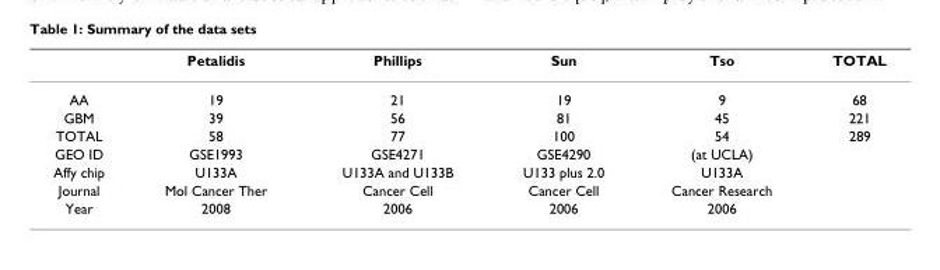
<table><thead><tr><td></td><td>Petalidis</td><td>Phillips</td><td>Sun</td><td>Tso</td><td>TOTAL</td></tr></thead><tbody><tr><td>AA</td><td>19</td><td>21</td><td>19</td><td>9</td><td>68</td></tr><tr><td>GBM</td><td>39</td><td>56</td><td>81</td><td>45</td><td>221</td></tr><tr><td>TOTAL</td><td>58</td><td>77</td><td>100</td><td>54</td><td>289</td></tr><tr><td>GEO ID</td><td>GSE1993</td><td>GSE4271</td><td>GSE4290</td><td>(at UCLA)</td><td></td></tr><tr><td>Affy chip</td><td>U133A</td><td>U133A and U133B</td><td>U133 plus 2.0</td><td>U133A</td><td></td></tr><tr><td>Journal</td><td>Mol Cancer Ther</td><td>Cancer Cell</td><td>Cancer Cell</td><td>Cancer Research</td><td></td></tr><tr><td>Year</td><td>2008</td><td>2006</td><td>2006</td><td>2006</td><td></td></tr></tbody></table>